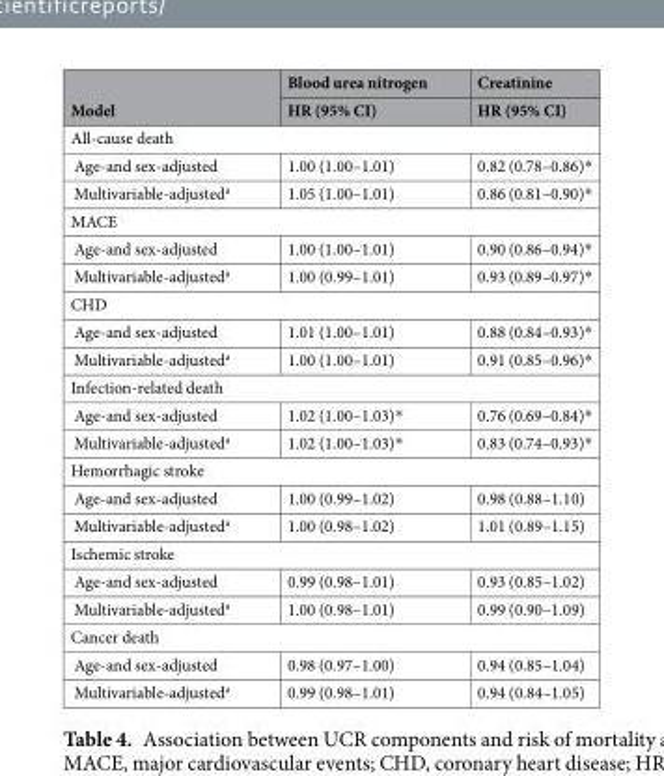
<table><thead><tr><td rowspan="2">Model</td><td rowspan="2">Blood urea nitrogen HR (95% CI)</td><td rowspan="2">Creatinine HR (95% CI)</td></tr><tr></tr></thead><tbody><tr><td colspan="3">All-cause death</td></tr><tr><td>Age-and sex-adjusted</td><td>1.00 (1.00–1.01)</td><td>0.82 (0.78–0.86)*</td></tr><tr><td>Multivariable-adjusted<sup>a</sup></td><td>1.05 (1.00–1.01)</td><td>0.86 (0.81–0.90)*</td></tr><tr><td colspan="3">MACE</td></tr><tr><td>Age-and sex-adjusted</td><td>1.00 (1.00–1.01)</td><td>0.90 (0.86–0.94)*</td></tr><tr><td>Multivariable-adjusted<sup>a</sup></td><td>1.00 (0.99–1.01)</td><td>0.93 (0.89–0.97)*</td></tr><tr><td colspan="3">CHD</td></tr><tr><td>Age-and sex-adjusted</td><td>1.01 (1.00–1.01)</td><td>0.88 (0.84–0.93)*</td></tr><tr><td>Multivariable-adjusted<sup>a</sup></td><td>1.00 (1.00–1.01)</td><td>0.91 (0.85–0.96)*</td></tr><tr><td colspan="3">Infection-related death</td></tr><tr><td>Age-and sex-adjusted</td><td>1.02 (1.00–1.03)*</td><td>0.76 (0.69–0.84)*</td></tr><tr><td>Multivariable-adjusted<sup>a</sup></td><td>1.02 (1.00–1.03)*</td><td>0.83 (0.74–0.93)*</td></tr><tr><td colspan="3">Hemorrhagic stroke</td></tr><tr><td>Age-and sex-adjusted</td><td>1.00 (0.99–1.02)</td><td>0.98 (0.88–1.10)</td></tr><tr><td>Multivariable-adjusted<sup>a</sup></td><td>1.00 (0.98–1.02)</td><td>1.01 (0.89–1.15)</td></tr><tr><td colspan="3">Ischemic stroke</td></tr><tr><td>Age-and sex-adjusted</td><td>0.99 (0.98–1.01)</td><td>0.93 (0.85–1.02)</td></tr><tr><td>Multivariable-adjusted<sup>a</sup></td><td>1.00 (0.98–1.01)</td><td>0.99 (0.90–1.09)</td></tr><tr><td colspan="3">Cancer death</td></tr><tr><td>Age-and sex-adjusted</td><td>0.98 (0.97–1.00)</td><td>0.94 (0.85–1.04)</td></tr><tr><td>Multivariable-adjusted<sup>a</sup></td><td>0.99 (0.98–1.01)</td><td>0.94 (0.84–1.05)</td></tr></tbody></table>